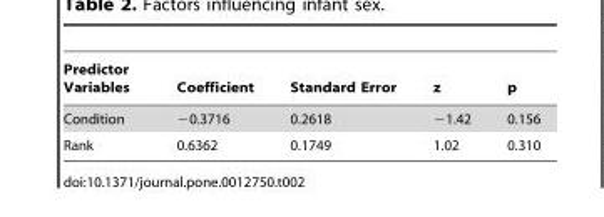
<table><thead><tr><td>Predictor Variables</td><td>Coefficient</td><td>Standard Error</td><td>z</td><td>p</td></tr></thead><tbody><tr><td>Condition</td><td>−0.3716</td><td>0.2618</td><td>−1.42</td><td>0.156</td></tr><tr><td>Rank</td><td>0.6362</td><td>0.1749</td><td>1.02</td><td>0.310</td></tr></tbody></table>